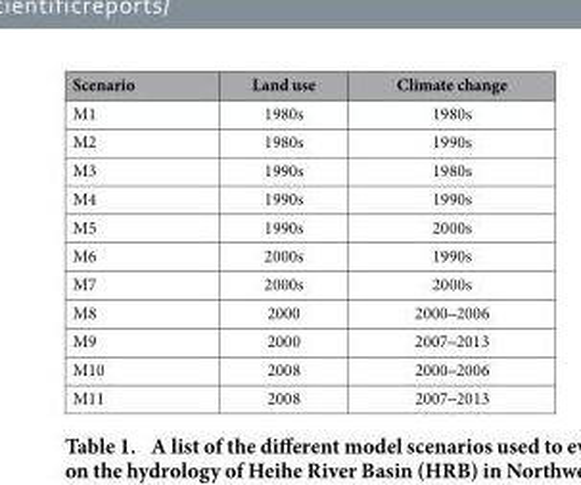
<table><thead><tr><td>Scenario</td><td>Land use</td><td>Climate change</td></tr></thead><tbody><tr><td>M1</td><td>1980s</td><td>1980s</td></tr><tr><td>M2</td><td>1980s</td><td>1990s</td></tr><tr><td>M3</td><td>1990s</td><td>1980s</td></tr><tr><td>M4</td><td>1990s</td><td>1990s</td></tr><tr><td>M5</td><td>1990s</td><td>2000s</td></tr><tr><td>M6</td><td>2000s</td><td>1990s</td></tr><tr><td>M7</td><td>2000s</td><td>2000s</td></tr><tr><td>M8</td><td>2000</td><td>2000‒ 2006</td></tr><tr><td>M9</td><td>2000</td><td>2007‒ 2013</td></tr><tr><td>M10</td><td>2008</td><td>2000‒ 2006</td></tr><tr><td>M11</td><td>2008</td><td>2007‒ 2013</td></tr></tbody></table>